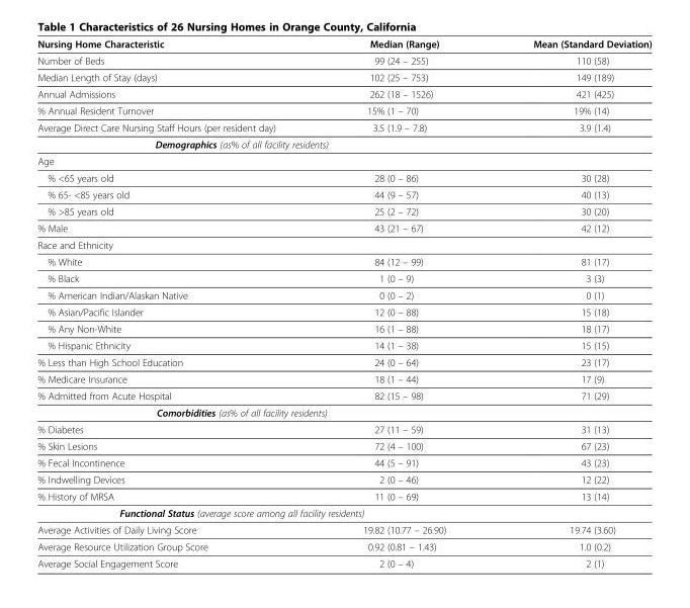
<table><thead><tr><td>Nursing Home Characteristic</td><td>Median (Range)</td><td>Mean (Standard Deviation)</td></tr></thead><tbody><tr><td>Number of Beds</td><td>99 (24 – 255)</td><td>110 (58)</td></tr><tr><td>Median Length of Stay (days)</td><td>102 (25 – 753)</td><td>149 (189)</td></tr><tr><td>Annual Admissions</td><td>262 (18 – 1526)</td><td>421 (425)</td></tr><tr><td>% Annual Resident Turnover</td><td>15% (1 – 70)</td><td>19% (14)</td></tr><tr><td>Average Direct Care Nursing Staff Hours (per resident day)</td><td>3.5 (1.9 – 7.8)</td><td>3.9 (1.4)</td></tr><tr><td colspan="3">Demographics (as% of all facility residents)</td></tr><tr><td colspan="3">Age</td></tr><tr><td>% &lt;65 years old</td><td>28 (0 – 86)</td><td>30 (28)</td></tr><tr><td>% 65- &lt;85 years old</td><td>44 (9 – 57)</td><td>40 (13)</td></tr><tr><td>% &gt;85 years old</td><td>25 (2 – 72)</td><td>30 (20)</td></tr><tr><td>% Male</td><td>43 (21 – 67)</td><td>42 (12)</td></tr><tr><td colspan="3">Race and Ethnicity</td></tr><tr><td>% White</td><td>84 (12 – 99)</td><td>81 (17)</td></tr><tr><td>% Black</td><td>1 (0 – 9)</td><td>3 (3)</td></tr><tr><td>% American Indian/Alaskan Native</td><td>0 (0 – 2)</td><td>0 (1)</td></tr><tr><td>% Asian/Pacific Islander</td><td>12 (0 – 88)</td><td>15 (18)</td></tr><tr><td>% Any Non-White</td><td>16 (1 – 88)</td><td>18 (17)</td></tr><tr><td>% Hispanic Ethnicity</td><td>14 (1 – 38)</td><td>15 (15)</td></tr><tr><td>% Less than High School Education</td><td>24 (0 – 64)</td><td>23 (17)</td></tr><tr><td>% Medicare Insurance</td><td>18 (1 – 44)</td><td>17 (9)</td></tr><tr><td>% Admitted from Acute Hospital</td><td>82 (15 – 98)</td><td>71 (29)</td></tr><tr><td colspan="3">Comorbidities (as% of all facility residents)</td></tr><tr><td>% Diabetes</td><td>27 (11 – 59)</td><td>31 (13)</td></tr><tr><td>% Skin Lesions</td><td>72 (4 – 100)</td><td>67 (23)</td></tr><tr><td>% Fecal Incontinence</td><td>44 (5 – 91)</td><td>43 (23)</td></tr><tr><td>% Indwelling Devices</td><td>2 (0 – 46)</td><td>12 (22)</td></tr><tr><td>% History of MRSA</td><td>11 (0 – 69)</td><td>13 (14)</td></tr><tr><td colspan="3">Functional Status (average score among all facility residents)</td></tr><tr><td>Average Activities of Daily Living Score</td><td>19.82 (10.77 – 26.90)</td><td>19.74 (3.60)</td></tr><tr><td>Average Resource Utilization Group Score</td><td>0.92 (0.81 – 1.43)</td><td>1.0 (0.2)</td></tr><tr><td>Average Social Engagement Score</td><td>2 (0 – 4)</td><td>2 (1)</td></tr></tbody></table>